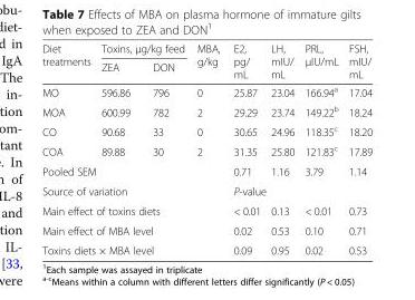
<table><thead><tr><td rowspan="2">Diet treatments</td><td colspan="2">Toxins, μg/kg feed</td><td rowspan="2">MBA, g/kg</td><td rowspan="2">E2, pg/ mL</td><td rowspan="2">LH, mIU/ mL</td><td rowspan="2">PRL, µIU/mL</td><td rowspan="2">FSH, mIU/ mL</td></tr><tr><td>ZEA</td><td>DON</td></tr></thead><tbody><tr><td>MO</td><td>596.86</td><td>796</td><td>0</td><td>25.87</td><td>23.04</td><td>166.94<sup>a</sup></td><td>17.04</td></tr><tr><td>MOA</td><td>600.99</td><td>782</td><td>2</td><td>29.29</td><td>23.74</td><td>149.22<sup>b</sup></td><td>18.24</td></tr><tr><td>CO</td><td>90.68</td><td>33</td><td>0</td><td>30.65</td><td>24.96</td><td>118.35<sup>c</sup></td><td>18.20</td></tr><tr><td>COA</td><td>89.88</td><td>30</td><td>2</td><td>31.35</td><td>25.80</td><td>121.83<sup>c</sup></td><td>17.89</td></tr><tr><td colspan="4">Pooled SEM</td><td>0.71</td><td>1.16</td><td>3.79</td><td>1.14</td></tr><tr><td colspan="4">Source of variation</td><td colspan="4">P-value</td></tr><tr><td colspan="4">Main effect of toxins diets</td><td>&lt; 0.01</td><td>0.13</td><td>&lt; 0.01</td><td>0.73</td></tr><tr><td colspan="4">Main effect of MBA level</td><td>0.02</td><td>0.53</td><td>0.10</td><td>0.71</td></tr><tr><td colspan="4">Toxins diets × MBA level</td><td>0.09</td><td>0.95</td><td>0.02</td><td>0.53</td></tr></tbody></table>